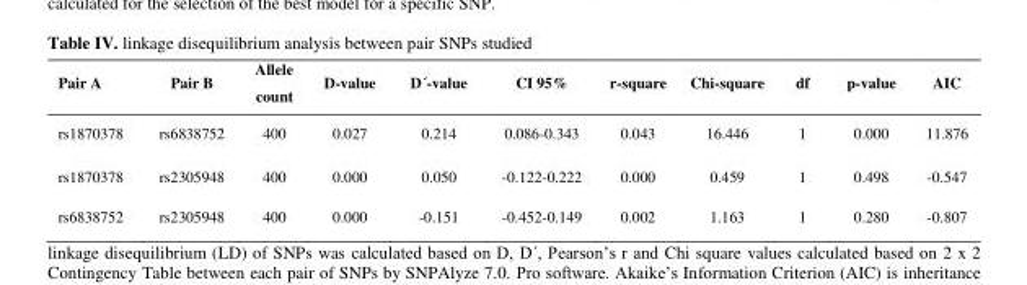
<table><thead><tr><td>Pair A</td><td>Pair B</td><td>Allele count</td><td>D-value</td><td>D´-value</td><td>CI 95%</td><td>r-square</td><td>Chi-square</td><td>df</td><td>p-value</td><td>AIC</td></tr></thead><tbody><tr><td>rs1870378</td><td>rs6838752</td><td>400</td><td>0.027</td><td>0.214</td><td>0.086-0.343</td><td>0.043</td><td>16.446</td><td>1</td><td>0.000</td><td>11.876</td></tr><tr><td>rs1870378</td><td>rs2305948</td><td>400</td><td>0.000</td><td>0.050</td><td>-0.122-0.222</td><td>0.000</td><td>0.459</td><td>1</td><td>0.498</td><td>-0.547</td></tr><tr><td>rs6838752</td><td>rs2305948</td><td>400</td><td>0.000</td><td>-0.151</td><td>-0.452-0.149</td><td>0.002</td><td>1.163</td><td>1</td><td>0.280</td><td>-0.807</td></tr></tbody></table>